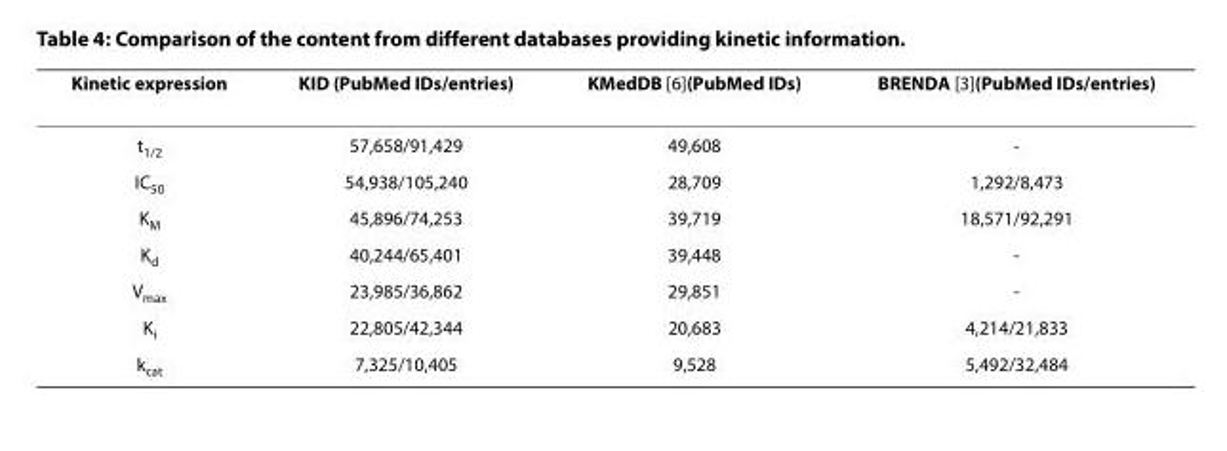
<table><thead><tr><td>Kinetic expression</td><td>KID (PubMed IDs/entries)</td><td>KMedDB [6](PubMed IDs)</td><td>BRENDA [3](PubMed IDs/entries)</td></tr></thead><tbody><tr><td>t<sub>1/2</sub></td><td>57,658/91,429</td><td>49,608</td><td>-</td></tr><tr><td>IC<sub>50</sub></td><td>54,938/105,240</td><td>28,709</td><td>1,292/8,473</td></tr><tr><td>K<sub>M</sub></td><td>45,896/74,253</td><td>39,719</td><td>18,571/92,291</td></tr><tr><td>K<sub>d</sub></td><td>40,244/65,401</td><td>39,448</td><td>-</td></tr><tr><td>V<sub>max</sub></td><td>23,985/36,862</td><td>29,851</td><td>-</td></tr><tr><td>K<sub>i</sub></td><td>22,805/42,344</td><td>20,683</td><td>4,214/21,833</td></tr><tr><td>k<sub>cat</sub></td><td>7,325/10,405</td><td>9,528</td><td>5,492/32,484</td></tr></tbody></table>